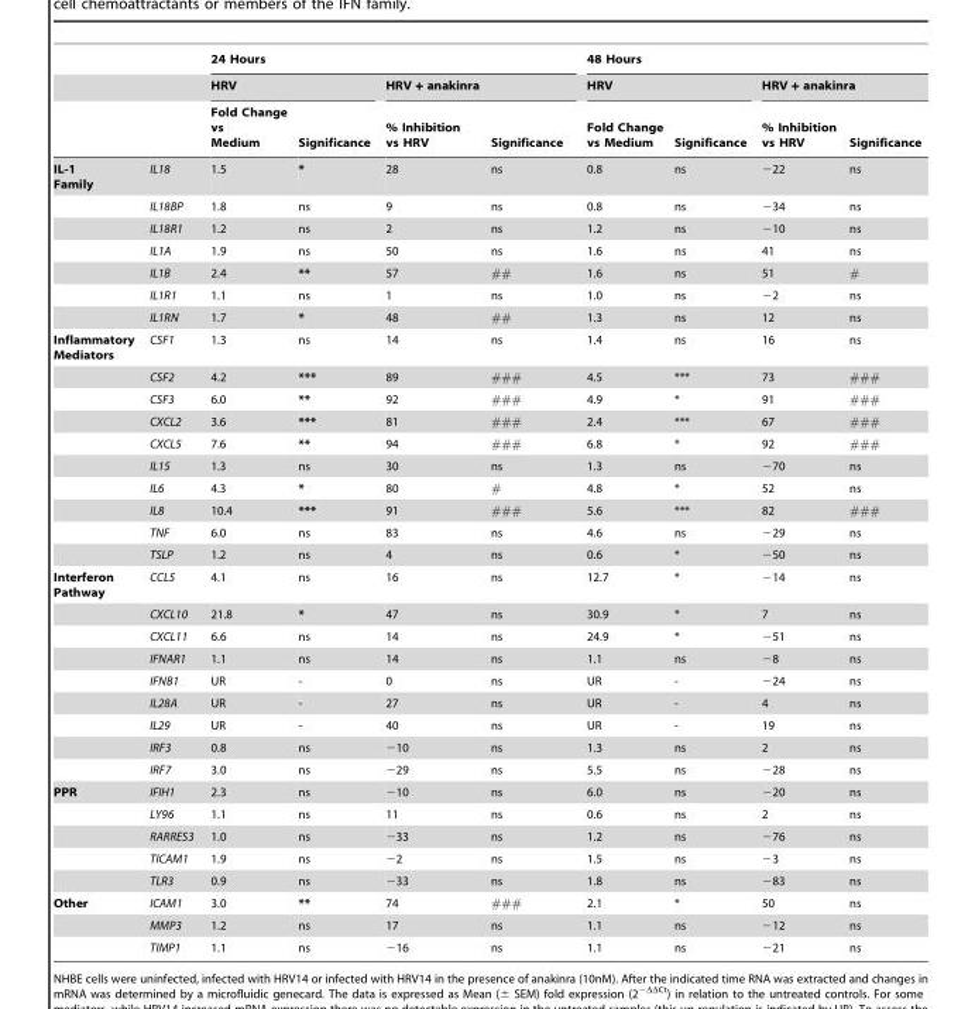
<table><thead><tr><td rowspan="3"></td><td rowspan="3"></td><td colspan="4">24 Hours</td><td colspan="4">48 Hours</td></tr><tr><td colspan="2">HRV</td><td colspan="2">HRV + anakinra</td><td colspan="2">HRV</td><td colspan="2">HRV + anakinra</td></tr><tr><td>Fold Change vs Medium</td><td>Significance</td><td>% Inhibition vs HRV</td><td>Significance</td><td>Fold Change vs Medium</td><td>Significance</td><td>% Inhibition vs HRV</td><td>Significance</td></tr></thead><tbody><tr><td rowspan="7">IL-1 Family</td><td>IL18</td><td>1.5</td><td>*</td><td>28</td><td>ns</td><td>0.8</td><td>ns</td><td>−22</td><td>ns</td></tr><tr><td>IL18BP</td><td>1.8</td><td>ns</td><td>9</td><td>ns</td><td>0.8</td><td>ns</td><td>−34</td><td>ns</td></tr><tr><td>IL18R1</td><td>1.2</td><td>ns</td><td>2</td><td>ns</td><td>1.2</td><td>ns</td><td>−10</td><td>ns</td></tr><tr><td>IL1A</td><td>1.9</td><td>ns</td><td>50</td><td>ns</td><td>1.6</td><td>ns</td><td>41</td><td>ns</td></tr><tr><td>IL1B</td><td>2.4</td><td>**</td><td>57</td><td>##</td><td>1.6</td><td>ns</td><td>51</td><td>#</td></tr><tr><td>IL1R1</td><td>1.1</td><td>ns</td><td>1</td><td>ns</td><td>1.0</td><td>ns</td><td>−2</td><td>ns</td></tr><tr><td>IL1RN</td><td>1.7</td><td>*</td><td>48</td><td>##</td><td>1.3</td><td>ns</td><td>12</td><td>ns</td></tr><tr><td rowspan="10">Inflammatory Mediators</td><td>CSF1</td><td>1.3</td><td>ns</td><td>14</td><td>ns</td><td>1.4</td><td>ns</td><td>16</td><td>ns</td></tr><tr><td>CSF2</td><td>4.2</td><td>***</td><td>89</td><td>###</td><td>4.5</td><td>***</td><td>73</td><td>###</td></tr><tr><td>CSF3</td><td>6.0</td><td>**</td><td>92</td><td>###</td><td>4.9</td><td>*</td><td>91</td><td>###</td></tr><tr><td>CXCL2</td><td>3.6</td><td>***</td><td>81</td><td>###</td><td>2.4</td><td>***</td><td>67</td><td>###</td></tr><tr><td>CXCL5</td><td>7.6</td><td>**</td><td>94</td><td>###</td><td>6.8</td><td>*</td><td>92</td><td>###</td></tr><tr><td>IL15</td><td>1.3</td><td>ns</td><td>30</td><td>ns</td><td>1.3</td><td>ns</td><td>−70</td><td>ns</td></tr><tr><td>IL6</td><td>4.3</td><td>*</td><td>80</td><td>#</td><td>4.8</td><td>*</td><td>52</td><td>ns</td></tr><tr><td>IL8</td><td>10.4</td><td>***</td><td>91</td><td>###</td><td>5.6</td><td>***</td><td>82</td><td>###</td></tr><tr><td>TNF</td><td>6.0</td><td>ns</td><td>83</td><td>ns</td><td>4.6</td><td>ns</td><td>−29</td><td>ns</td></tr><tr><td>TSLP</td><td>1.2</td><td>ns</td><td>4</td><td>ns</td><td>0.6</td><td>*</td><td>−50</td><td>ns</td></tr><tr><td rowspan="9">Interferon Pathway</td><td>CCL5</td><td>4.1</td><td>ns</td><td>16</td><td>ns</td><td>12.7</td><td>*</td><td>−14</td><td>ns</td></tr><tr><td>CXCL10</td><td>21.8</td><td>*</td><td>47</td><td>ns</td><td>30.9</td><td>*</td><td>7</td><td>ns</td></tr><tr><td>CXCL11</td><td>6.6</td><td>ns</td><td>14</td><td>ns</td><td>24.9</td><td>*</td><td>−51</td><td>ns</td></tr><tr><td>IFNAR1</td><td>1.1</td><td>ns</td><td>14</td><td>ns</td><td>1.1</td><td>ns</td><td>−8</td><td>ns</td></tr><tr><td>IFNB1</td><td>UR</td><td>-</td><td>0</td><td>ns</td><td>UR</td><td>-</td><td>−24</td><td>ns</td></tr><tr><td>IL28A</td><td>UR</td><td>-</td><td>27</td><td>ns</td><td>UR</td><td>-</td><td>4</td><td>ns</td></tr><tr><td>IL29</td><td>UR</td><td>-</td><td>40</td><td>ns</td><td>UR</td><td>-</td><td>19</td><td>ns</td></tr><tr><td>IRF3</td><td>0.8</td><td>ns</td><td>−10</td><td>ns</td><td>1.3</td><td>ns</td><td>2</td><td>ns</td></tr><tr><td>IRF7</td><td>3.0</td><td>ns</td><td>−29</td><td>ns</td><td>5.5</td><td>ns</td><td>−28</td><td>ns</td></tr><tr><td rowspan="5">PPR</td><td>IFIH1</td><td>2.3</td><td>ns</td><td>−10</td><td>ns</td><td>6.0</td><td>ns</td><td>−20</td><td>ns</td></tr><tr><td>LY96</td><td>1.1</td><td>ns</td><td>11</td><td>ns</td><td>0.6</td><td>ns</td><td>2</td><td>ns</td></tr><tr><td>RARRES3</td><td>1.0</td><td>ns</td><td>−33</td><td>ns</td><td>1.2</td><td>ns</td><td>−76</td><td>ns</td></tr><tr><td>TICAM1</td><td>1.9</td><td>ns</td><td>−2</td><td>ns</td><td>1.5</td><td>ns</td><td>−3</td><td>ns</td></tr><tr><td>TLR3</td><td>0.9</td><td>ns</td><td>−33</td><td>ns</td><td>1.8</td><td>ns</td><td>−83</td><td>ns</td></tr><tr><td rowspan="3">Other</td><td>ICAM1</td><td>3.0</td><td>**</td><td>74</td><td>###</td><td>2.1</td><td>*</td><td>50</td><td>ns</td></tr><tr><td>MMP3</td><td>1.2</td><td>ns</td><td>17</td><td>ns</td><td>1.1</td><td>ns</td><td>−12</td><td>ns</td></tr><tr><td>TIMP1</td><td>1.1</td><td>ns</td><td>−16</td><td>ns</td><td>1.1</td><td>ns</td><td>−21</td><td>ns</td></tr></tbody></table>